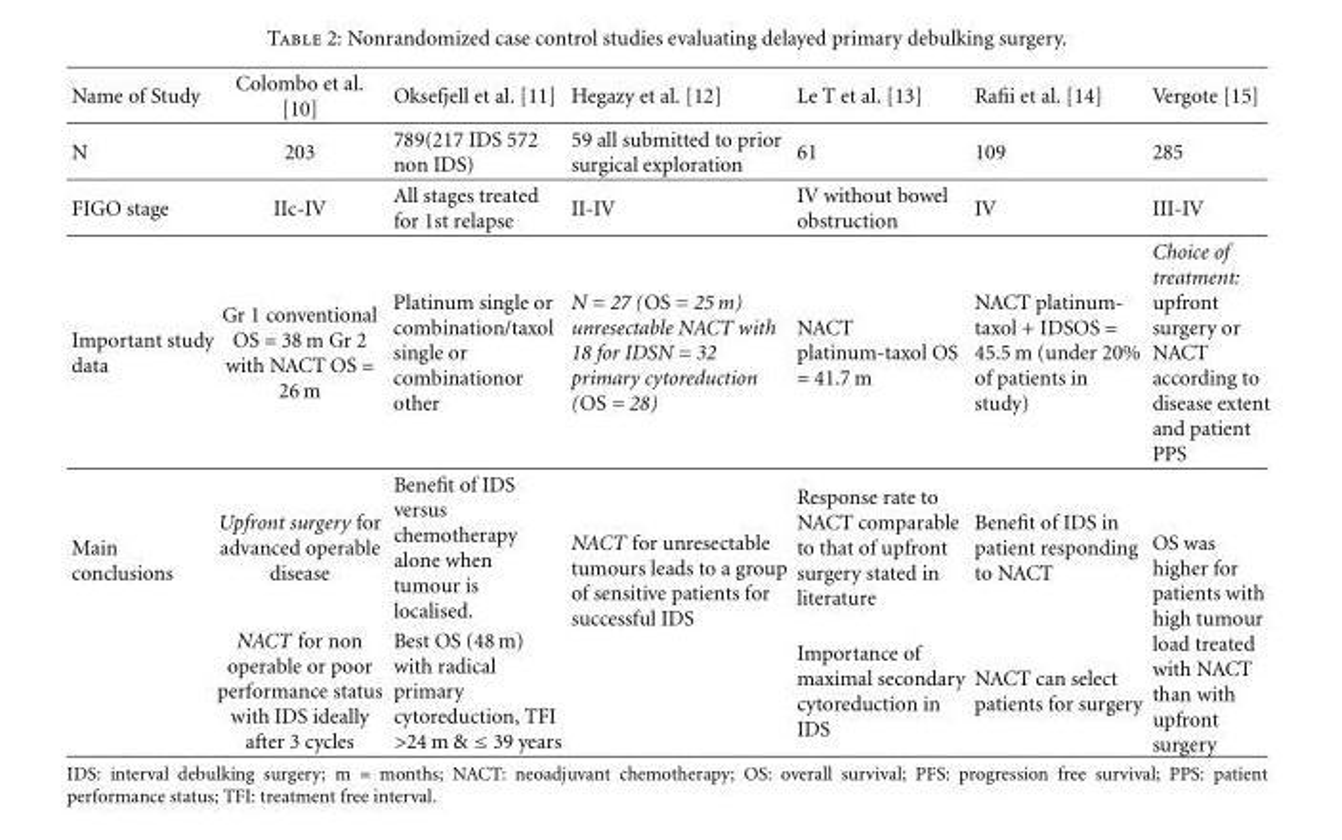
<table><thead><tr><td>Name of Study</td><td>Colombo et al. [10]</td><td>Oksefjell et al. [11]</td><td>Hegazy et al. [12]</td><td>Le T et al. [13]</td><td>Rafii et al. [14]</td><td>Vergote [15]</td></tr></thead><tbody><tr><td>N</td><td>203</td><td>789(217 IDS 572 non IDS)</td><td>59 all submitted to prior surgical exploration</td><td>61</td><td>109</td><td>285</td></tr><tr><td>FIGO stage</td><td>IIc-IV</td><td>All stages treated for 1st relapse</td><td>II-IV</td><td>IV without bowel obstruction</td><td>IV</td><td>III-IV</td></tr><tr><td>Important study data</td><td>Gr 1 conventional OS = 38 m Gr 2 with NACT OS = 26 m</td><td>Platinum single or combination/taxol single or combinationor other</td><td>N = 27 (OS = 25 m) unresectable NACT with 18 for IDSN = 32 primary cytoreduction (OS = 28)</td><td>NACT platinum-taxol OS = 41.7 m</td><td>NACT platinum- taxol + IDSOS = 45.5 m (under 20% of patients in study)</td><td>Choice of treatment: upfront surgery or NACT according to disease extent and patient PPS</td></tr><tr><td rowspan="2">Main conclusions</td><td>Upfront surgery for advanced operable disease</td><td>Benefit of IDS versus chemotherapy alone when tumour is localised.</td><td rowspan="2">NACT for unresectable tumours leads to a group of sensitive patients for successful IDS</td><td>Response rate to NACT comparable to that of upfront surgery stated in literature</td><td>Benefit of IDS in patient responding to NACT</td><td rowspan="2">OS was higher for patients with high tumour load treated with NACT than with upfront surgery</td></tr><tr><td>NACT for non operable or poor performance status with IDS ideally after 3 cycles</td><td>Best OS (48 m) with radical primary cytoreduction, TFI &gt;24 m &amp; ≤ 39 years</td><td>Importance of maximal secondary cytoreduction in IDS</td><td>NACT can select patients for surgery</td></tr></tbody></table>